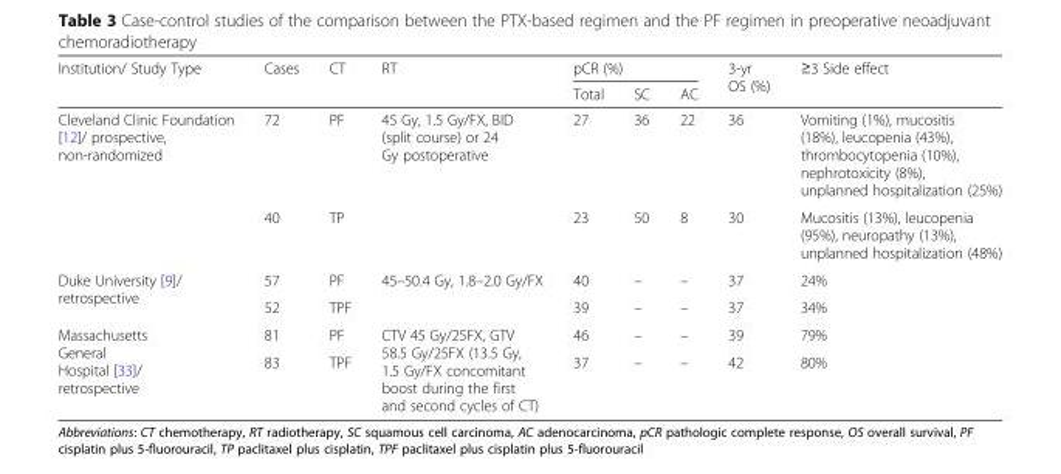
<table><thead><tr><td rowspan="2">Institution/ Study Type</td><td rowspan="2">Cases</td><td rowspan="2">CT</td><td rowspan="2">RT</td><td colspan="3">pCR (%)</td><td rowspan="2">3-yr OS (%)</td><td rowspan="2">≥3 Side effect</td></tr><tr><td>Total</td><td>SC</td><td>AC</td></tr></thead><tbody><tr><td rowspan="2">Cleveland Clinic Foundation [12]/ prospective, non-randomized</td><td>72</td><td>PF</td><td rowspan="2">45 Gy, 1.5 Gy/FX, BID (split course) or 24 Gy postoperative</td><td>27</td><td>36</td><td>22</td><td>36</td><td>Vomiting (1%), mucositis (18%), leucopenia (43%), thrombocytopenia (10%), nephrotoxicity (8%), unplanned hospitalization (25%)</td></tr><tr><td>40</td><td>TP</td><td>23</td><td>50</td><td>8</td><td>30</td><td>Mucositis (13%), leucopenia (95%), neuropathy (13%), unplanned hospitalization (48%)</td></tr><tr><td rowspan="2">Duke University [9]/ retrospective</td><td>57</td><td>PF</td><td rowspan="2">45–50.4 Gy, 1.8–2.0 Gy/FX</td><td>40</td><td>–</td><td>–</td><td>37</td><td>24%</td></tr><tr><td>52</td><td>TPF</td><td>39</td><td>–</td><td>–</td><td>37</td><td>34%</td></tr><tr><td rowspan="2">Massachusetts General Hospital [33]/ retrospective</td><td>81</td><td>PF</td><td rowspan="2">CTV 45 Gy/25FX, GTV 58.5 Gy/25FX (13.5 Gy, 1.5 Gy/FX concomitant boost during the first and second cycles of CT)</td><td>46</td><td>–</td><td>–</td><td>39</td><td>79%</td></tr><tr><td>83</td><td>TPF</td><td>37</td><td>–</td><td>–</td><td>42</td><td>80%</td></tr></tbody></table>